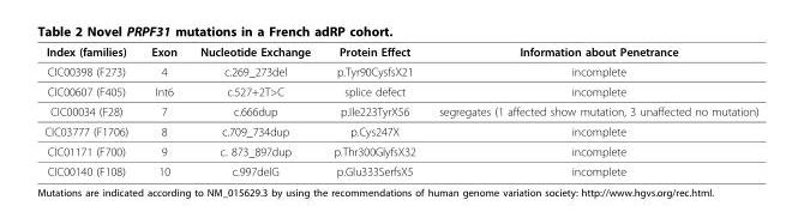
<table><thead><tr><td>Index (families)</td><td>Exon</td><td>Nucleotide Exchange</td><td>Protein Effect</td><td>Information about Penetrance</td></tr></thead><tbody><tr><td>CIC00398 (F273)</td><td>4</td><td>c.269_273del</td><td>p.Tyr90CysfsX21</td><td>incomplete</td></tr><tr><td>CIC00607 (F405)</td><td>Int6</td><td>c.527+2T&gt;C</td><td>splice defect</td><td>incomplete</td></tr><tr><td>CIC00034 (F28)</td><td>7</td><td>c.666dup</td><td>p.Ile223TyrX56</td><td>segregates (1 affected show mutation, 3 unaffected no mutation)</td></tr><tr><td>CIC03777 (F1706)</td><td>8</td><td>c.709_734dup</td><td>p.Cys247X</td><td>incomplete</td></tr><tr><td>CIC01171 (F700)</td><td>9</td><td>c. 873_897dup</td><td>p.Thr300GlyfsX32</td><td>incomplete</td></tr><tr><td>CIC00140 (F108)</td><td>10</td><td>c.997delG</td><td>p.Glu333SerfsX5</td><td>incomplete</td></tr></tbody></table>